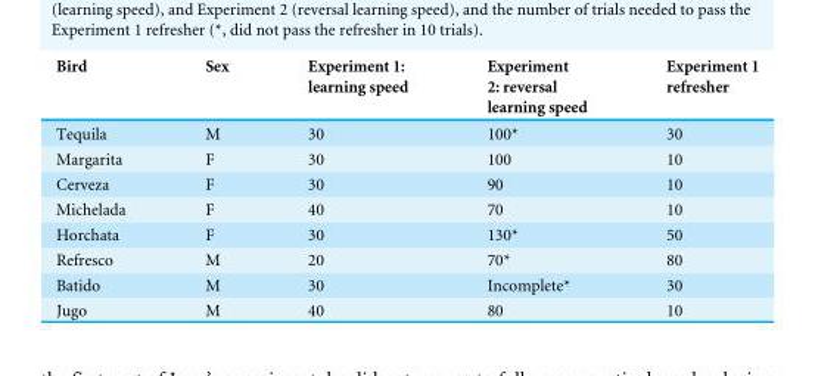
<table><thead><tr><td>Bird</td><td>Sex</td><td>Experiment 1: learning speed</td><td>Experiment 2: reversal learning speed</td><td>Experiment 1 refresher</td></tr></thead><tbody><tr><td>Tequila</td><td>M</td><td>30</td><td>100*</td><td>30</td></tr><tr><td>Margarita</td><td>F</td><td>30</td><td>100</td><td>10</td></tr><tr><td>Cerveza</td><td>F</td><td>30</td><td>90</td><td>10</td></tr><tr><td>Michelada</td><td>F</td><td>40</td><td>70</td><td>10</td></tr><tr><td>Horchata</td><td>F</td><td>30</td><td>130*</td><td>50</td></tr><tr><td>Refresco</td><td>M</td><td>20</td><td>70*</td><td>80</td></tr><tr><td>Batido</td><td>M</td><td>30</td><td>Incomplete*</td><td>30</td></tr><tr><td>Jugo</td><td>M</td><td>40</td><td>80</td><td>10</td></tr></tbody></table>